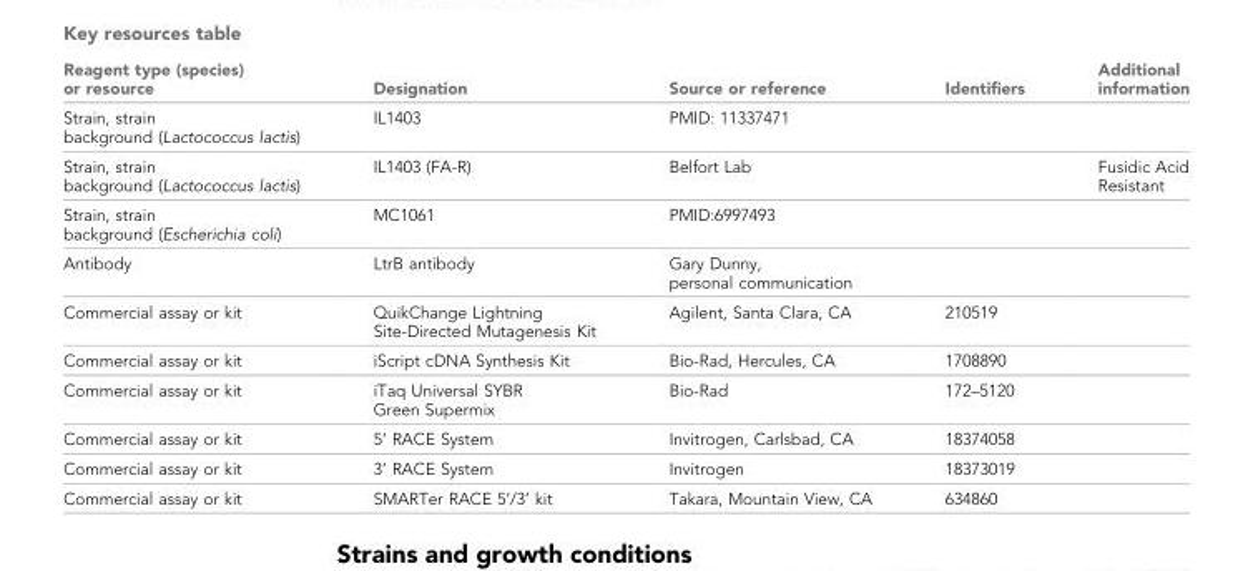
<table><thead><tr><td>Reagent type (species) or resource</td><td>Designation</td><td>Source or reference</td><td>Identifiers</td><td>Additional information</td></tr></thead><tbody><tr><td>Strain, strain background (Lactococcus lactis)</td><td>IL1403</td><td>PMID: 11337471</td><td></td><td></td></tr><tr><td>Strain, strain background (Lactococcus lactis)</td><td>IL1403 (FA-R)</td><td>Belfort Lab</td><td></td><td>Fusidic Acid Resistant</td></tr><tr><td>Strain, strain background (Escherichia coli)</td><td>MC1061</td><td>PMID:6997493</td><td></td><td></td></tr><tr><td>Antibody</td><td>LtrB antibody</td><td>Gary Dunny, personal communication</td><td></td><td></td></tr><tr><td>Commercial assay or kit</td><td>QuikChange Lightning Site-Directed Mutagenesis Kit</td><td>Agilent, Santa Clara, CA</td><td>210519</td><td></td></tr><tr><td>Commercial assay or kit</td><td>iScript cDNA Synthesis Kit</td><td>Bio-Rad, Hercules, CA</td><td>1708890</td><td></td></tr><tr><td>Commercial assay or kit</td><td>iTaq Universal SYBR Green Supermix</td><td>Bio-Rad</td><td>172–5120</td><td></td></tr><tr><td>Commercial assay or kit</td><td>5’ RACE System</td><td>Invitrogen, Carlsbad, CA</td><td>18374058</td><td></td></tr><tr><td>Commercial assay or kit</td><td>3’ RACE System</td><td>Invitrogen</td><td>18373019</td><td></td></tr><tr><td>Commercial assay or kit</td><td>SMARTer RACE 5’/3’ kit</td><td>Takara, Mountain View, CA</td><td>634860</td><td></td></tr></tbody></table>